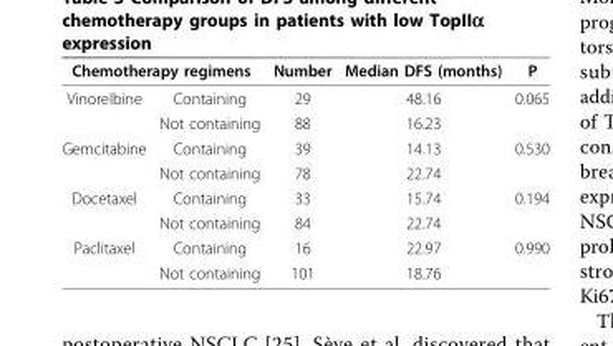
<table><thead><tr><td colspan="2">Chemotherapy regimens</td><td rowspan="2">Number 29</td><td rowspan="2">Median DFS (months) 48.16</td><td rowspan="2">P 0.065</td></tr><tr><td>Vinorelbine</td><td>Containing</td></tr></thead><tbody><tr><td></td><td>Not containing</td><td>88</td><td>16.23</td><td></td></tr><tr><td rowspan="2">Gemcitabine</td><td>Containing</td><td>39</td><td>14.13</td><td>0.530</td></tr><tr><td>Not containing</td><td>78</td><td>22.74</td><td></td></tr><tr><td rowspan="2">Docetaxel</td><td>Containing</td><td>33</td><td>15.74</td><td>0.194</td></tr><tr><td>Not containing</td><td>84</td><td>22.74</td><td></td></tr><tr><td rowspan="2">Paclitaxel</td><td>Containing</td><td>16</td><td>22.97</td><td>0.990</td></tr><tr><td>Not containing</td><td>101</td><td>18.76</td><td></td></tr></tbody></table>